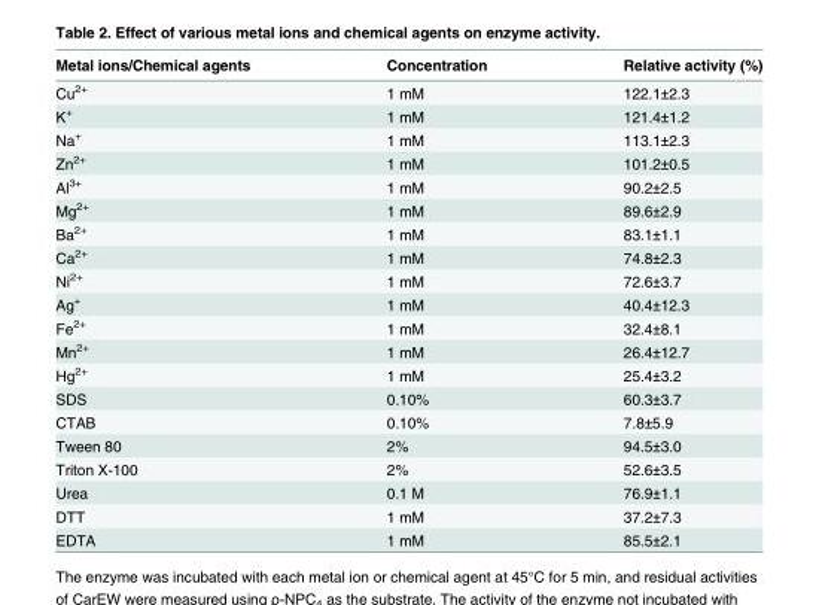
<table><thead><tr><td>Metal ions/Chemical agents</td><td>Concentration</td><td>Relative activity (%)</td></tr></thead><tbody><tr><td>Cu<sup>2+</sup></td><td>1 mM</td><td>122.1±2.3</td></tr><tr><td>K<sup>+</sup></td><td>1 mM</td><td>121.4±1.2</td></tr><tr><td>Na<sup>+</sup></td><td>1 mM</td><td>113.1±2.3</td></tr><tr><td>Zn<sup>2+</sup></td><td>1 mM</td><td>101.2±0.5</td></tr><tr><td>Al<sup>3+</sup></td><td>1 mM</td><td>90.2±2.5</td></tr><tr><td>Mg<sup>2+</sup></td><td>1 mM</td><td>89.6±2.9</td></tr><tr><td>Ba<sup>2+</sup></td><td>1 mM</td><td>83.1±1.1</td></tr><tr><td>Ca<sup>2+</sup></td><td>1 mM</td><td>74.8±2.3</td></tr><tr><td>Ni<sup>2+</sup></td><td>1 mM</td><td>72.6±3.7</td></tr><tr><td>Ag<sup>+</sup></td><td>1 mM</td><td>40.4±12.3</td></tr><tr><td>Fe<sup>2+</sup></td><td>1 mM</td><td>32.4±8.1</td></tr><tr><td>Mn<sup>2+</sup></td><td>1 mM</td><td>26.4±12.7</td></tr><tr><td>Hg<sup>2+</sup></td><td>1 mM</td><td>25.4±3.2</td></tr><tr><td>SDS</td><td>0.10%</td><td>60.3±3.7</td></tr><tr><td>CTAB</td><td>0.10%</td><td>7.8±5.9</td></tr><tr><td>Tween 80</td><td>2%</td><td>94.5±3.0</td></tr><tr><td>Triton X-100</td><td>2%</td><td>52.6±3.5</td></tr><tr><td>Urea</td><td>0.1 M</td><td>76.9±1.1</td></tr><tr><td>DTT</td><td>1 mM</td><td>37.2±7.3</td></tr><tr><td>EDTA</td><td>1 mM</td><td>85.5±2.1</td></tr></tbody></table>